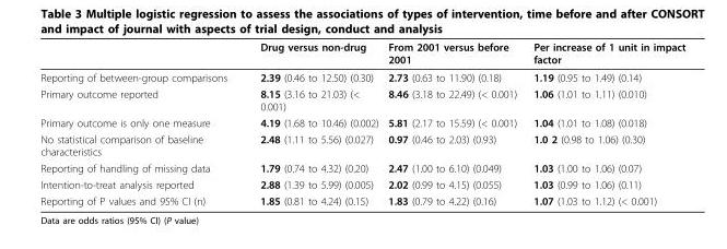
<table><thead><tr><td></td><td>Drug versus non-drug</td><td>From 2001 versus before 2001</td><td>Per increase of 1 unit in impact factor</td></tr></thead><tbody><tr><td>Reporting of between-group comparisons</td><td>2.39 (0.46 to 12.50) (0.30)</td><td>2.73 (0.63 to 11.90) (0.18)</td><td>1.19 (0.95 to 1.49) (0.14)</td></tr><tr><td>Primary outcome reported</td><td>8.15 (3.16 to 21.03) (&lt; 0.001)</td><td>8.46 (3.18 to 22.49) (&lt; 0.001)</td><td>1.06 (1.01 to 1.11) (0.010)</td></tr><tr><td>Primary outcome is only one measure</td><td>4.19 (1.68 to 10.46) (0.002)</td><td>5.81 (2.17 to 15.59) (&lt; 0.001)</td><td>1.04 (1.01 to 1.08) (0.018)</td></tr><tr><td>No statistical comparison of baseline characteristics</td><td>2.48 (1.11 to 5.56) (0.027)</td><td>0.97 (0.46 to 2.03) (0.93)</td><td>1.0 2 (0.98 to 1.06) (0.30)</td></tr><tr><td>Reporting of handling of missing data</td><td>1.79 (0.74 to 4.32) (0.20)</td><td>2.47 (1.00 to 6.10) (0.049)</td><td>1.03 (1.00 to 1.06) (0.07)</td></tr><tr><td>Intention-to-treat analysis reported</td><td>2.88 (1.39 to 5.99) (0.005)</td><td>2.02 (0.99 to 4.15) (0.055)</td><td>1.03 (0.99 to 1.06) (0.11)</td></tr><tr><td>Reporting of P values and 95% CI (n)</td><td>1.85 (0.81 to 4.24) (0.15)</td><td>1.83 (0.79 to 4.22) (0.16)</td><td>1.07 (1.03 to 1.12) (&lt; 0.001)</td></tr></tbody></table>